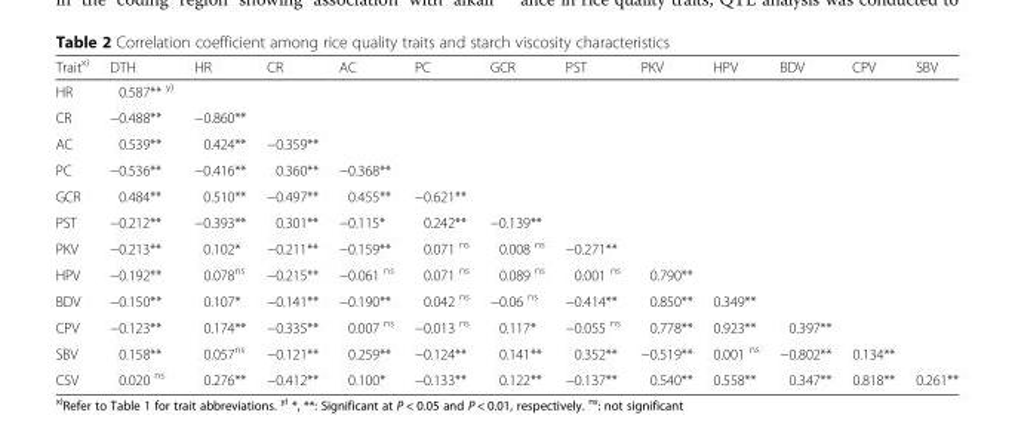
<table><thead><tr><td>Trait<sup>x)</sup></td><td>DTH</td><td>HR</td><td>CR</td><td>AC</td><td>PC</td><td>GCR</td><td>PST</td><td>PKV</td><td>HPV</td><td>BDV</td><td>CPV</td><td>SBV</td></tr></thead><tbody><tr><td>HR</td><td>0.587** <sup>y)</sup></td><td></td><td></td><td></td><td></td><td></td><td></td><td></td><td></td><td></td><td></td><td></td></tr><tr><td>CR</td><td>−0.488**</td><td>−0.860**</td><td></td><td></td><td></td><td></td><td></td><td></td><td></td><td></td><td></td><td></td></tr><tr><td>AC</td><td>0.539**</td><td>0.424**</td><td>−0.359**</td><td></td><td></td><td></td><td></td><td></td><td></td><td></td><td></td><td></td></tr><tr><td>PC</td><td>−0.536**</td><td>−0.416**</td><td>0.360**</td><td>−0.368**</td><td></td><td></td><td></td><td></td><td></td><td></td><td></td><td></td></tr><tr><td>GCR</td><td>0.484**</td><td>0.510**</td><td>−0.497**</td><td>0.455**</td><td>−0.621**</td><td></td><td></td><td></td><td></td><td></td><td></td><td></td></tr><tr><td>PST</td><td>−0.212**</td><td>−0.393**</td><td>0.301**</td><td>−0.115*</td><td>0.242**</td><td>−0.139**</td><td></td><td></td><td></td><td></td><td></td><td></td></tr><tr><td>PKV</td><td>−0.213**</td><td>0.102*</td><td>−0.211**</td><td>−0.159**</td><td>0.071 <sup>ns</sup></td><td>0.008 <sup>ns</sup></td><td>−0.271**</td><td></td><td></td><td></td><td></td><td></td></tr><tr><td>HPV</td><td>−0.192**</td><td>0.078<sup>ns</sup></td><td>−0.215**</td><td>−0.061 <sup>ns</sup></td><td>0.071 <sup>ns</sup></td><td>0.089 <sup>ns</sup></td><td>0.001 <sup>ns</sup></td><td>0.790**</td><td></td><td></td><td></td><td></td></tr><tr><td>BDV</td><td>−0.150**</td><td>0.107*</td><td>−0.141**</td><td>−0.190**</td><td>0.042 <sup>ns</sup></td><td>−0.06 <sup>ns</sup></td><td>−0.414**</td><td>0.850**</td><td>0.349**</td><td></td><td></td><td></td></tr><tr><td>CPV</td><td>−0.123**</td><td>0.174**</td><td>−0.335**</td><td>0.007 <sup>ns</sup></td><td>−0.013 <sup>ns</sup></td><td>0.117*</td><td>−0.055 <sup>ns</sup></td><td>0.778**</td><td>0.923**</td><td>0.397**</td><td></td><td></td></tr><tr><td>SBV</td><td>0.158**</td><td>0.057<sup>ns</sup></td><td>−0.121**</td><td>0.259**</td><td>−0.124**</td><td>0.141**</td><td>0.352**</td><td>−0.519**</td><td>0.001 <sup>ns</sup></td><td>−0.802**</td><td>0.134**</td><td></td></tr><tr><td>CSV</td><td>0.020 <sup>ns</sup></td><td>0.276**</td><td>−0.412**</td><td>0.100*</td><td>−0.133**</td><td>0.122**</td><td>−0.137**</td><td>0.540**</td><td>0.558**</td><td>0.347**</td><td>0.818**</td><td>0.261**</td></tr></tbody></table>